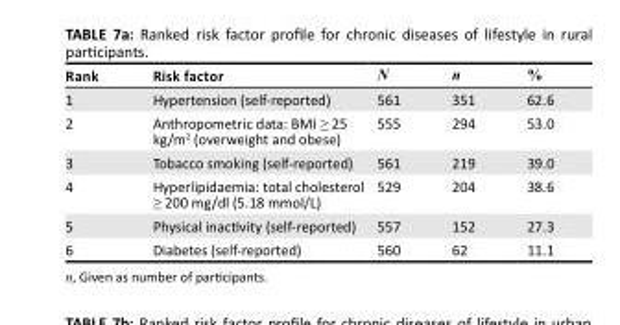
<table><thead><tr><td>Rank</td><td>Risk factor</td><td>N</td><td>n</td><td>%</td></tr></thead><tbody><tr><td>1</td><td>Hypertension (self-reported)</td><td>561</td><td>351</td><td>62.6</td></tr><tr><td>2</td><td>Anthropometric data: BMI ≥ 25 kg/m<sup>2</sup> (overweight and obese)</td><td>555</td><td>294</td><td>53.0</td></tr><tr><td>3</td><td>Tobacco smoking (self-reported)</td><td>561</td><td>219</td><td>39.0</td></tr><tr><td>4</td><td>Hyperlipidaemia: total cholesterol ≥ 200 mg/dl (5.18 mmol/L)</td><td>529</td><td>204</td><td>38.6</td></tr><tr><td>5</td><td>Physical inactivity (self-reported)</td><td>557</td><td>152</td><td>27.3</td></tr><tr><td>6</td><td>Diabetes (self-reported)</td><td>560</td><td>62</td><td>11.1</td></tr></tbody></table>